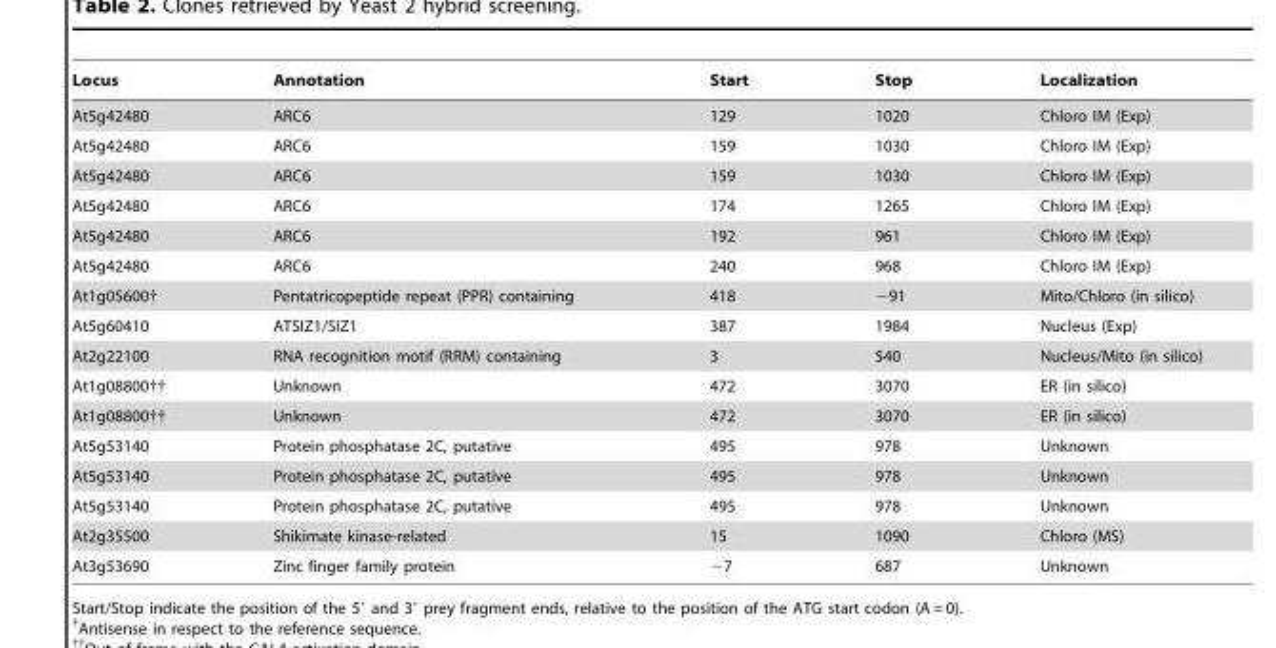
<table><thead><tr><td>Locus</td><td>Annotation</td><td>Start</td><td>Stop</td><td>Localization</td></tr></thead><tbody><tr><td>At5g42480</td><td>ARC6</td><td>129</td><td>1020</td><td>Chloro IM (Exp)</td></tr><tr><td>At5g42480</td><td>ARC6</td><td>159</td><td>1030</td><td>Chloro IM (Exp)</td></tr><tr><td>At5g42480</td><td>ARC6</td><td>159</td><td>1030</td><td>Chloro IM (Exp)</td></tr><tr><td>At5g42480</td><td>ARC6</td><td>174</td><td>1265</td><td>Chloro IM (Exp)</td></tr><tr><td>At5g42480</td><td>ARC6</td><td>192</td><td>961</td><td>Chloro IM (Exp)</td></tr><tr><td>At5g42480</td><td>ARC6</td><td>240</td><td>968</td><td>Chloro IM (Exp)</td></tr><tr><td>At1g05600†</td><td>Pentatricopeptide repeat (PPR) containing</td><td>418</td><td>−91</td><td>Mito/Chloro (in silico)</td></tr><tr><td>At5g60410</td><td>ATSIZ1/SIZ1</td><td>387</td><td>1984</td><td>Nucleus (Exp)</td></tr><tr><td>At2g22100</td><td>RNA recognition motif (RRM) containing</td><td>3</td><td>540</td><td>Nucleus/Mito (in silico)</td></tr><tr><td>At1g08800††</td><td>Unknown</td><td>472</td><td>3070</td><td>ER (in silico)</td></tr><tr><td>At1g08800††</td><td>Unknown</td><td>472</td><td>3070</td><td>ER (in silico)</td></tr><tr><td>At5g53140</td><td>Protein phosphatase 2C, putative</td><td>495</td><td>978</td><td>Unknown</td></tr><tr><td>At5g53140</td><td>Protein phosphatase 2C, putative</td><td>495</td><td>978</td><td>Unknown</td></tr><tr><td>At5g53140</td><td>Protein phosphatase 2C, putative</td><td>495</td><td>978</td><td>Unknown</td></tr><tr><td>At2g35500</td><td>Shikimate kinase-related</td><td>15</td><td>1090</td><td>Chloro (MS)</td></tr><tr><td>At3g53690</td><td>Zinc finger family protein</td><td>−7</td><td>687</td><td>Unknown</td></tr></tbody></table>